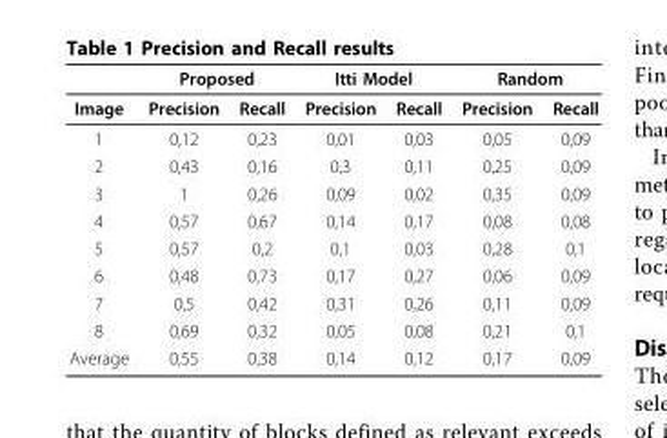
<table><thead><tr><td rowspan="2">Image</td><td colspan="2">Proposed</td><td colspan="2">Itti Model</td><td colspan="2">Random</td></tr><tr><td>Precision</td><td>Recall</td><td>Precision</td><td>Recall</td><td>Precision</td><td>Recall</td></tr></thead><tbody><tr><td>1</td><td>0,12</td><td>0,23</td><td>0,01</td><td>0,03</td><td>0,05</td><td>0,09</td></tr><tr><td>2</td><td>0,43</td><td>0,16</td><td>0,3</td><td>0,11</td><td>0,25</td><td>0,09</td></tr><tr><td>3</td><td>1</td><td>0,26</td><td>0,09</td><td>0,02</td><td>0,35</td><td>0,09</td></tr><tr><td>4</td><td>0,57</td><td>0,67</td><td>0,14</td><td>0,17</td><td>0,08</td><td>0,08</td></tr><tr><td>5</td><td>0,57</td><td>0,2</td><td>0,1</td><td>0,03</td><td>0,28</td><td>0,1</td></tr><tr><td>6</td><td>0,48</td><td>0,73</td><td>0,17</td><td>0,27</td><td>0,06</td><td>0,09</td></tr><tr><td>7</td><td>0,5</td><td>0,42</td><td>0,31</td><td>0,26</td><td>0,11</td><td>0,09</td></tr><tr><td>8</td><td>0,69</td><td>0,32</td><td>0,05</td><td>0,08</td><td>0,21</td><td>0,1</td></tr><tr><td>Average</td><td>0,55</td><td>0,38</td><td>0,14</td><td>0,12</td><td>0,17</td><td>0,09</td></tr></tbody></table>